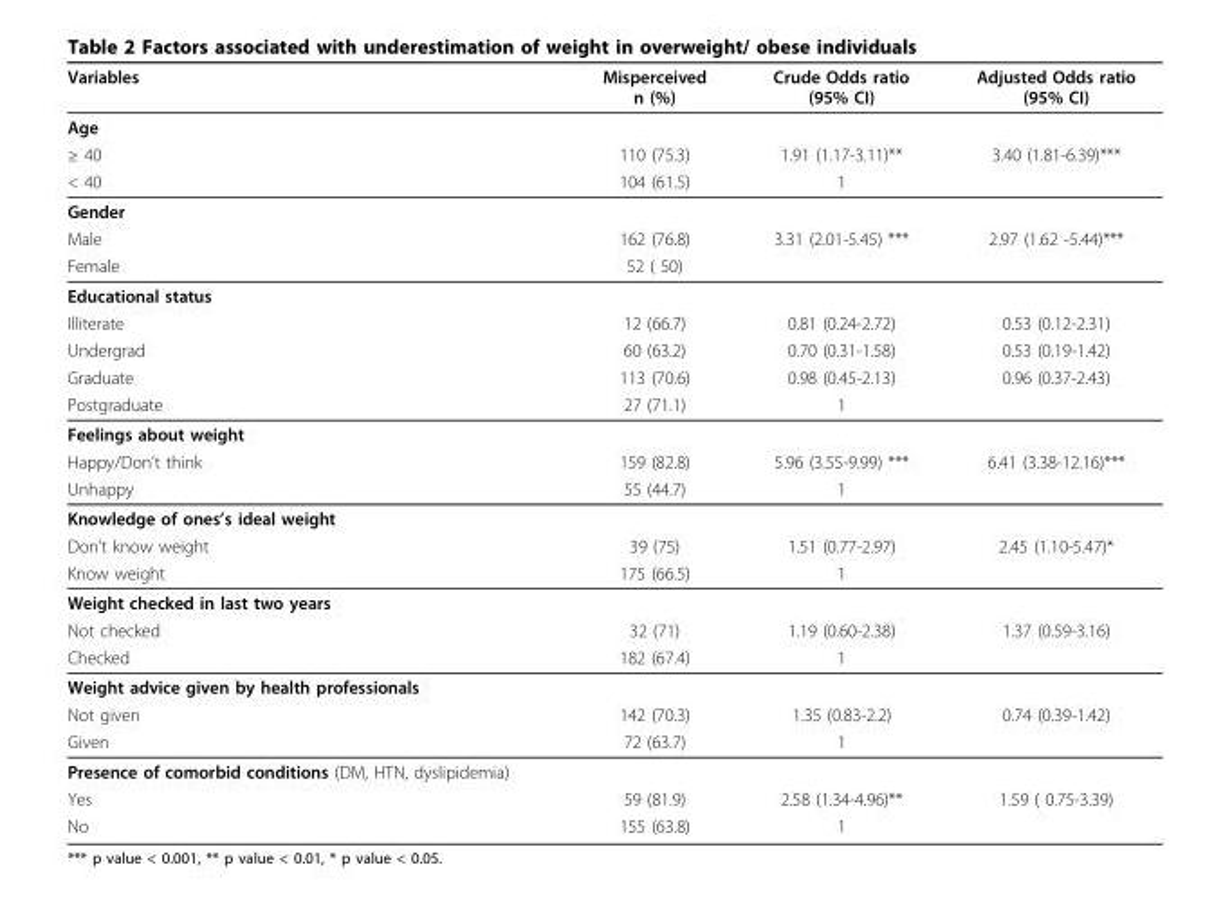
<table><thead><tr><td>Variables</td><td>Misperceived n (%)</td><td>Crude Odds ratio (95% CI)</td><td>Adjusted Odds ratio (95% CI)</td></tr></thead><tbody><tr><td colspan="4">Age</td></tr><tr><td>≥ 40</td><td>110 (75.3)</td><td>1.91 (1.17-3.11)**</td><td>3.40 (1.81-6.39)***</td></tr><tr><td>&lt; 40</td><td>104 (61.5)</td><td>1</td><td></td></tr><tr><td colspan="4">Gender</td></tr><tr><td>Male</td><td>162 (76.8)</td><td>3.31 (2.01-5.45) ***</td><td>2.97 (1.62 -5.44)***</td></tr><tr><td>Female</td><td>52 ( 50)</td><td></td><td></td></tr><tr><td colspan="4">Educational status</td></tr><tr><td>Illiterate</td><td>12 (66.7)</td><td>0.81 (0.24-2.72)</td><td>0.53 (0.12-2.31)</td></tr><tr><td>Undergrad</td><td>60 (63.2)</td><td>0.70 (0.31-1.58)</td><td>0.53 (0.19-1.42)</td></tr><tr><td>Graduate</td><td>113 (70.6)</td><td>0.98 (0.45-2.13)</td><td>0.96 (0.37-2.43)</td></tr><tr><td>Postgraduate</td><td>27 (71.1)</td><td>1</td><td></td></tr><tr><td colspan="4">Feelings about weight</td></tr><tr><td>Happy/Don’t think</td><td>159 (82.8)</td><td>5.96 (3.55-9.99) ***</td><td>6.41 (3.38-12.16)***</td></tr><tr><td>Unhappy</td><td>55 (44.7)</td><td>1</td><td></td></tr><tr><td colspan="4">Knowledge of ones’s ideal weight</td></tr><tr><td>Don’t know weight</td><td>39 (75)</td><td>1.51 (0.77-2.97)</td><td>2.45 (1.10-5.47)*</td></tr><tr><td>Know weight</td><td>175 (66.5)</td><td>1</td><td></td></tr><tr><td colspan="4">Weight checked in last two years</td></tr><tr><td>Not checked</td><td>32 (71)</td><td>1.19 (0.60-2.38)</td><td>1.37 (0.59-3.16)</td></tr><tr><td>Checked</td><td>182 (67.4)</td><td>1</td><td></td></tr><tr><td colspan="4">Weight advice given by health professionals</td></tr><tr><td>Not given</td><td>142 (70.3)</td><td>1.35 (0.83-2.2)</td><td>0.74 (0.39-1.42)</td></tr><tr><td>Given</td><td>72 (63.7)</td><td>1</td><td></td></tr><tr><td colspan="4">Presence of comorbid conditions (DM, HTN, dyslipidemia)</td></tr><tr><td>Yes</td><td>59 (81.9)</td><td>2.58 (1.34-4.96)**</td><td>1.59 ( 0.75-3.39)</td></tr><tr><td>No</td><td>155 (63.8)</td><td>1</td><td></td></tr></tbody></table>